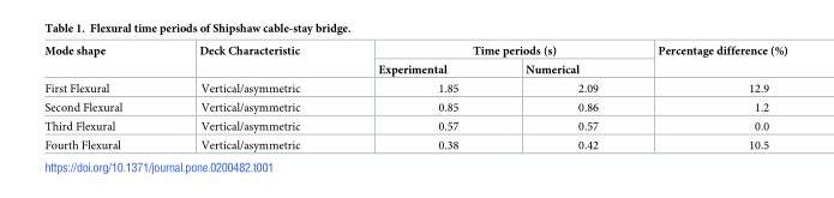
<table><thead><tr><td rowspan="2">Mode shape</td><td rowspan="2">Deck Characteristic</td><td colspan="2">Time periods (s)</td><td rowspan="2">Percentage difference (%)</td></tr><tr><td>Experimental</td><td>Numerical</td></tr></thead><tbody><tr><td>First Flexural</td><td>Vertical/asymmetric</td><td>1.85</td><td>2.09</td><td>12.9</td></tr><tr><td>Second Flexural</td><td>Vertical/asymmetric</td><td>0.85</td><td>0.86</td><td>1.2</td></tr><tr><td>Third Flexural</td><td>Vertical/asymmetric</td><td>0.57</td><td>0.57</td><td>0.0</td></tr><tr><td>Fourth Flexural</td><td>Vertical/asymmetric</td><td>0.38</td><td>0.42</td><td>10.5</td></tr></tbody></table>